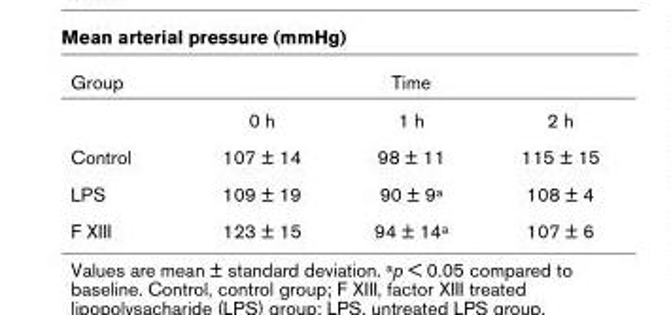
<table><thead><tr><td rowspan="2">Group</td><td colspan="3">Time</td></tr><tr><td>0 h</td><td>1 h</td><td>2 h</td></tr></thead><tbody><tr><td>Control</td><td>107 ± 14</td><td>98 ± 11</td><td>115 ± 15</td></tr><tr><td>LPS</td><td>109 ± 19</td><td>90 ± 9a</td><td>108 ± 4</td></tr><tr><td>F XIII</td><td>123 ± 15</td><td>94 ± 14a</td><td>107 ± 6</td></tr></tbody></table>